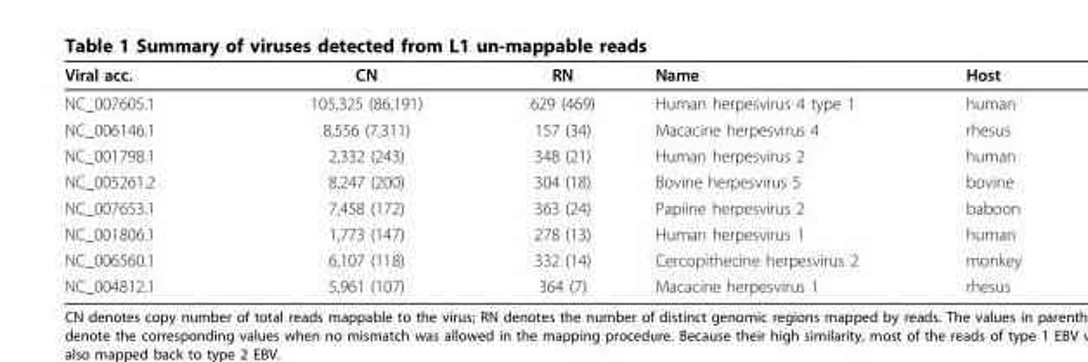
<table><thead><tr><td>Viral acc.</td><td>CN</td><td>RN</td><td>Name</td><td>Host</td></tr></thead><tbody><tr><td>NC_007605.1</td><td>105,325 (86,191)</td><td>629 (469)</td><td>Human herpesvirus 4 type 1</td><td>human</td></tr><tr><td>NC_006146.1</td><td>8,556 (7,311)</td><td>157 (34)</td><td>Macacine herpesvirus 4</td><td>rhesus</td></tr><tr><td>NC_001798.1</td><td>2,332 (243)</td><td>348 (21)</td><td>Human herpesvirus 2</td><td>human</td></tr><tr><td>NC_005261.2</td><td>8,247 (200)</td><td>304 (18)</td><td>Bovine herpesvirus 5</td><td>bovine</td></tr><tr><td>NC_007653.1</td><td>7,458 (172)</td><td>363 (24)</td><td>Papiine herpesvirus 2</td><td>baboon</td></tr><tr><td>NC_001806.1</td><td>1,773 (147)</td><td>278 (13)</td><td>Human herpesvirus 1</td><td>human</td></tr><tr><td>NC_006560.1</td><td>6,107 (118)</td><td>332 (14)</td><td>Cercopithecine herpesvirus 2</td><td>monkey</td></tr><tr><td>NC_004812.1</td><td>5,961 (107)</td><td>364 (7)</td><td>Macacine herpesvirus 1</td><td>rhesus</td></tr></tbody></table>